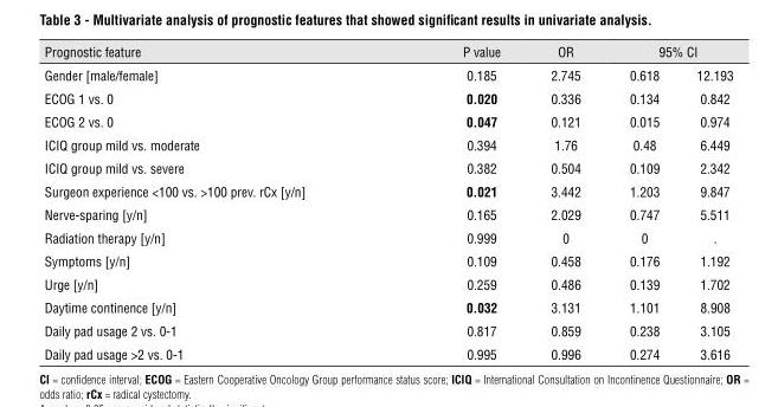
<table><thead><tr><td rowspan="2">Prognostic feature Gender [male/female]</td><td rowspan="2">P value 0.185</td><td rowspan="2">OR 2.745</td><td colspan="2">95% CI</td></tr><tr><td>0.618</td><td>12.193</td></tr></thead><tbody><tr><td>ECOG 1 vs. 0</td><td>0.020</td><td>0.336</td><td>0.134</td><td>0.842</td></tr><tr><td>ECOG 2 vs. 0</td><td>0.047</td><td>0.121</td><td>0.015</td><td>0.974</td></tr><tr><td>ICIQ group mild vs. moderate</td><td>0.394</td><td>1.76</td><td>0.48</td><td>6.449</td></tr><tr><td>ICIQ group mild vs. severe</td><td>0.382</td><td>0.504</td><td>0.109</td><td>2.342</td></tr><tr><td>Surgeon experience &lt;100 vs. &gt;100 prev. rCx [y/n]</td><td>0.021</td><td>3.442</td><td>1.203</td><td>9.847</td></tr><tr><td>Nerve-sparing [y/n]</td><td>0.165</td><td>2.029</td><td>0.747</td><td>5.511</td></tr><tr><td>Radiation therapy [y/n]</td><td>0.999</td><td>0</td><td>0</td><td>.</td></tr><tr><td>Symptoms [y/n]</td><td>0.109</td><td>0.458</td><td>0.176</td><td>1.192</td></tr><tr><td>Urge [y/n]</td><td>0.259</td><td>0.486</td><td>0.139</td><td>1.702</td></tr><tr><td>Daytime continence [y/n]</td><td>0.032</td><td>3.131</td><td>1.101</td><td>8.908</td></tr><tr><td>Daily pad usage 2 vs. 0-1</td><td>0.817</td><td>0.859</td><td>0.238</td><td>3.105</td></tr><tr><td>Daily pad usage &gt;2 vs. 0-1</td><td>0.995</td><td>0.996</td><td>0.274</td><td>3.616</td></tr></tbody></table>